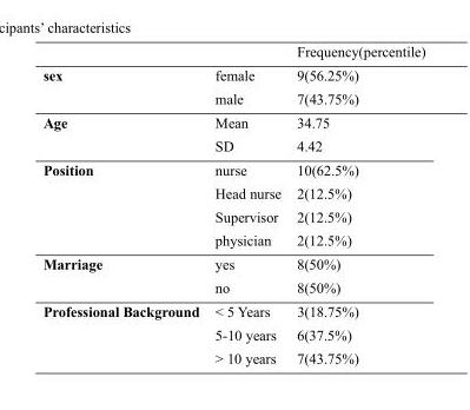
<table><thead><tr><td></td><td></td><td>Frequency(percentile)</td></tr></thead><tbody><tr><td rowspan="2">sex</td><td>female</td><td>9(56.25%)</td></tr><tr><td>male</td><td>7(43.75%)</td></tr><tr><td rowspan="2">Age</td><td>Mean</td><td>34.75</td></tr><tr><td>SD</td><td>4.42</td></tr><tr><td rowspan="4">Position</td><td>nurse</td><td>10(62.5%)</td></tr><tr><td>Head nurse</td><td>2(12.5%)</td></tr><tr><td>Supervisor</td><td>2(12.5%)</td></tr><tr><td>physician</td><td>2(12.5%)</td></tr><tr><td rowspan="2">Marriage</td><td>yes</td><td>8(50%)</td></tr><tr><td>no</td><td>8(50%)</td></tr><tr><td rowspan="3">Professional Background</td><td>&lt; 5 Years</td><td>3(18.75%)</td></tr><tr><td>5-10 years</td><td>6(37.5%)</td></tr><tr><td>&gt; 10 years</td><td>7(43.75%)</td></tr></tbody></table>